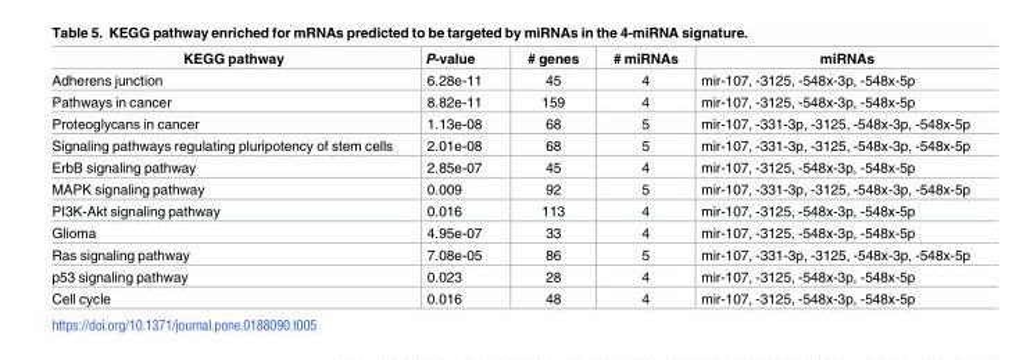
<table><thead><tr><td>KEGG pathway</td><td>P-value</td><td># genes</td><td># miRNAs</td><td>miRNAs</td></tr></thead><tbody><tr><td>Adherens junction</td><td>6.28e-11</td><td>45</td><td>4</td><td>mir-107, -3125, -548x-3p, -548x-5p</td></tr><tr><td>Pathways in cancer</td><td>8.82e-11</td><td>159</td><td>4</td><td>mir-107, -3125, -548x-3p, -548x-5p</td></tr><tr><td>Proteoglycans in cancer</td><td>1.13e-08</td><td>68</td><td>5</td><td>mir-107, -331-3p, -3125, -548x-3p, -548x-5p</td></tr><tr><td>Signaling pathways regulating pluripotency of stem cells</td><td>2.01e-08</td><td>68</td><td>5</td><td>mir-107, -331-3p, -3125, -548x-3p, -548x-5p</td></tr><tr><td>ErbB signaling pathway</td><td>2.85e-07</td><td>45</td><td>4</td><td>mir-107, -3125, -548x-3p, -548x-5p</td></tr><tr><td>MAPK signaling pathway</td><td>0.009</td><td>92</td><td>5</td><td>mir-107, -331-3p, -3125, -548x-3p, -548x-5p</td></tr><tr><td>PI3K-Akt signaling pathway</td><td>0.016</td><td>113</td><td>4</td><td>mir-107, -3125, -548x-3p, -548x-5p</td></tr><tr><td>Glioma</td><td>4.95e-07</td><td>33</td><td>4</td><td>mir-107, -3125, -548x-3p, -548x-5p</td></tr><tr><td>Ras signaling pathway</td><td>7.08e-05</td><td>86</td><td>5</td><td>mir-107, -331-3p, -3125, -548x-3p, -548x-5p</td></tr><tr><td>p53 signaling pathway</td><td>0.023</td><td>28</td><td>4</td><td>mir-107, -3125, -548x-3p, -548x-5p</td></tr><tr><td>Cell cycle</td><td>0.016</td><td>48</td><td>4</td><td>mir-107, -3125, -548x-3p, -548x-5p</td></tr></tbody></table>